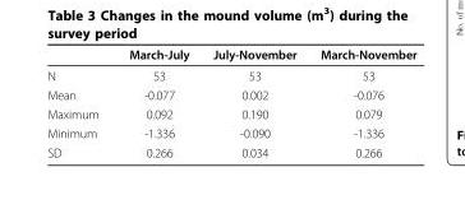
<table><thead><tr><td></td><td>March-July</td><td>July-November</td><td>March-November</td></tr></thead><tbody><tr><td>N</td><td>53</td><td>53</td><td>53</td></tr><tr><td>Mean</td><td>-0.077</td><td>0.002</td><td>-0.076</td></tr><tr><td>Maximum</td><td>0.092</td><td>0.190</td><td>0.079</td></tr><tr><td>Minimum</td><td>-1.336</td><td>-0.090</td><td>-1.336</td></tr><tr><td>SD</td><td>0.266</td><td>0.034</td><td>0.266</td></tr></tbody></table>